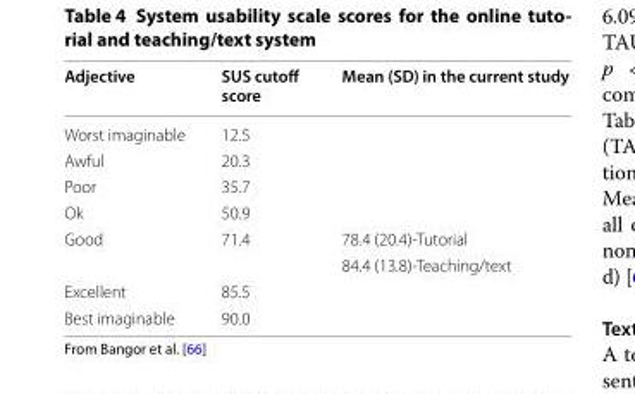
<table><thead><tr><td>Adjective</td><td>SUS cutoff score</td><td>Mean (SD) in the current study</td></tr></thead><tbody><tr><td>Worst imaginable</td><td>12.5</td><td></td></tr><tr><td>Awful</td><td>20.3</td><td></td></tr><tr><td>Poor</td><td>35.7</td><td></td></tr><tr><td>Ok</td><td>50.9</td><td></td></tr><tr><td rowspan="2">Good</td><td rowspan="2">71.4</td><td>78.4 (20.4)-Tutorial</td></tr><tr><td>84.4 (13.8)-Teaching/text</td></tr><tr><td>Excellent</td><td>85.5</td><td></td></tr><tr><td>Best imaginable</td><td>90.0</td><td></td></tr></tbody></table>